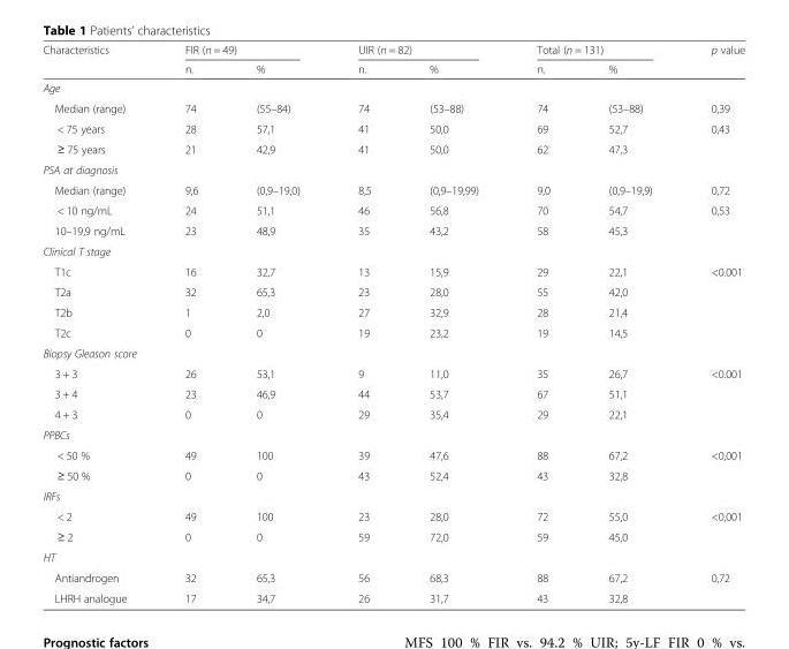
<table><thead><tr><td rowspan="2">Characteristics</td><td colspan="2">FIR (n = 49)</td><td colspan="2">UIR (n = 82)</td><td colspan="2">Total (n = 131)</td><td rowspan="2">p value</td></tr><tr><td>n.</td><td>%</td><td>n.</td><td>%</td><td>n.</td><td>%</td></tr></thead><tbody><tr><td colspan="8">Age</td></tr><tr><td>Median (range)</td><td>74</td><td>(55–84)</td><td>74</td><td>(53–88)</td><td>74</td><td>(53–88)</td><td>0,39</td></tr><tr><td>&lt; 75 years</td><td>28</td><td>57,1</td><td>41</td><td>50,0</td><td>69</td><td>52,7</td><td rowspan="2">0,43</td></tr><tr><td>≥ 75 years</td><td>21</td><td>42,9</td><td>41</td><td>50,0</td><td>62</td><td>47,3</td></tr><tr><td colspan="8">PSA at diagnosis</td></tr><tr><td>Median (range)</td><td>9,6</td><td>(0,9–19,0)</td><td>8,5</td><td>(0,9–19,99)</td><td>9,0</td><td>(0,9–19,9)</td><td>0,72</td></tr><tr><td>&lt; 10 ng/mL</td><td>24</td><td>51,1</td><td>46</td><td>56,8</td><td>70</td><td>54,7</td><td rowspan="2">0,53</td></tr><tr><td>10–19,9 ng/mL</td><td>23</td><td>48,9</td><td>35</td><td>43,2</td><td>58</td><td>45,3</td></tr><tr><td colspan="8">Clinical T stage</td></tr><tr><td>T1c</td><td>16</td><td>32,7</td><td>13</td><td>15,9</td><td>29</td><td>22,1</td><td rowspan="4">&lt;0.001</td></tr><tr><td>T2a</td><td>32</td><td>65,3</td><td>23</td><td>28,0</td><td>55</td><td>42,0</td></tr><tr><td>T2b</td><td>1</td><td>2,0</td><td>27</td><td>32,9</td><td>28</td><td>21,4</td></tr><tr><td>T2c</td><td>0</td><td>0</td><td>19</td><td>23,2</td><td>19</td><td>14,5</td></tr><tr><td colspan="8">Biopsy Gleason score</td></tr><tr><td>3 + 3</td><td>26</td><td>53,1</td><td>9</td><td>11,0</td><td>35</td><td>26,7</td><td rowspan="3">&lt;0.001</td></tr><tr><td>3 + 4</td><td>23</td><td>46,9</td><td>44</td><td>53,7</td><td>67</td><td>51,1</td></tr><tr><td>4 + 3</td><td>0</td><td>0</td><td>29</td><td>35,4</td><td>29</td><td>22,1</td></tr><tr><td colspan="8">PPBCs</td></tr><tr><td>&lt; 50 %</td><td>49</td><td>100</td><td>39</td><td>47,6</td><td>88</td><td>67,2</td><td rowspan="2">&lt;0,001</td></tr><tr><td>≥ 50 %</td><td>0</td><td>0</td><td>43</td><td>52,4</td><td>43</td><td>32,8</td></tr><tr><td colspan="8">IRFs</td></tr><tr><td>&lt; 2</td><td>49</td><td>100</td><td>23</td><td>28,0</td><td>72</td><td>55,0</td><td rowspan="2">&lt;0,001</td></tr><tr><td>≥ 2</td><td>0</td><td>0</td><td>59</td><td>72,0</td><td>59</td><td>45,0</td></tr><tr><td colspan="8">HT</td></tr><tr><td>Antiandrogen</td><td>32</td><td>65,3</td><td>56</td><td>68,3</td><td>88</td><td>67,2</td><td rowspan="2">0,72</td></tr><tr><td>LHRH analogue</td><td>17</td><td>34,7</td><td>26</td><td>31,7</td><td>43</td><td>32,8</td></tr></tbody></table>